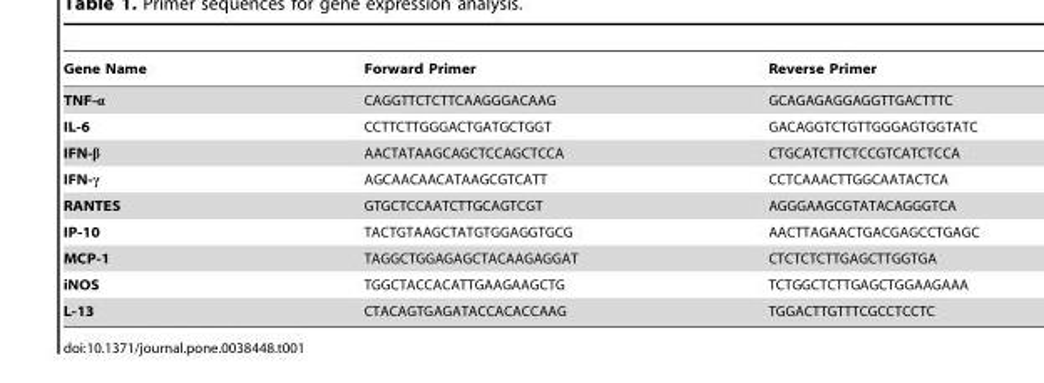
<table><thead><tr><td>Gene Name</td><td>Forward Primer</td><td>Reverse Primer</td></tr></thead><tbody><tr><td>TNF-α</td><td>CAGGTTCTCTTCAAGGGACAAG</td><td>GCAGAGAGGAGGTTGACTTTC</td></tr><tr><td>IL-6</td><td>CCTTCTTGGGACTGATGCTGGT</td><td>GACAGGTCTGTTGGGAGTGGTATC</td></tr><tr><td>IFN-β</td><td>AACTATAAGCAGCTCCAGCTCCA</td><td>CTGCATCTTCTCCGTCATCTCCA</td></tr><tr><td>IFN-γ</td><td>AGCAACAACATAAGCGTCATT</td><td>CCTCAAACTTGGCAATACTCA</td></tr><tr><td>RANTES</td><td>GTGCTCCAATCTTGCAGTCGT</td><td>AGGGAAGCGTATACAGGGTCA</td></tr><tr><td>IP-10</td><td>TACTGTAAGCTATGTGGAGGTGCG</td><td>AACTTAGAACTGACGAGCCTGAGC</td></tr><tr><td>MCP-1</td><td>TAGGCTGGAGAGCTACAAGAGGAT</td><td>CTCTCTCTTGAGCTTGGTGA</td></tr><tr><td>iNOS</td><td>TGGCTACCACATTGAAGAAGCTG</td><td>TCTGGCTCTTGAGCTGGAAGAAA</td></tr><tr><td>L-13</td><td>CTACAGTGAGATACCACACCAAG</td><td>TGGACTTGTTTCGCCTCCTC</td></tr></tbody></table>